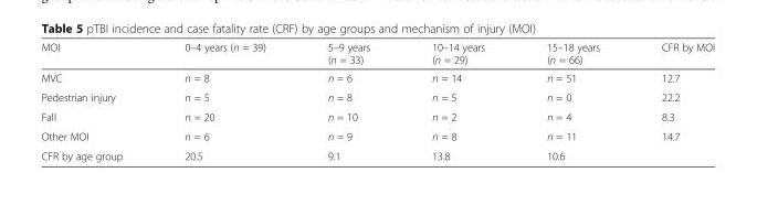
<table><thead><tr><td>MOI</td><td>0–4 years (n = 39)</td><td>5–9 years (n = 33)</td><td>10–14 years (n = 29)</td><td>15–18 years (n = 66)</td><td>CFR by MOI</td></tr></thead><tbody><tr><td>MVC</td><td>n = 8</td><td>n = 6</td><td>n = 14</td><td>n = 51</td><td>12.7</td></tr><tr><td>Pedestrian injury</td><td>n = 5</td><td>n = 8</td><td>n = 5</td><td>n = 0</td><td>22.2</td></tr><tr><td>Fall</td><td>n = 20</td><td>n = 10</td><td>n = 2</td><td>n = 4</td><td>8.3</td></tr><tr><td>Other MOI</td><td>n = 6</td><td>n = 9</td><td>n = 8</td><td>n = 11</td><td>14.7</td></tr><tr><td>CFR by age group</td><td>20.5</td><td>9.1</td><td>13.8</td><td>10.6</td><td></td></tr></tbody></table>